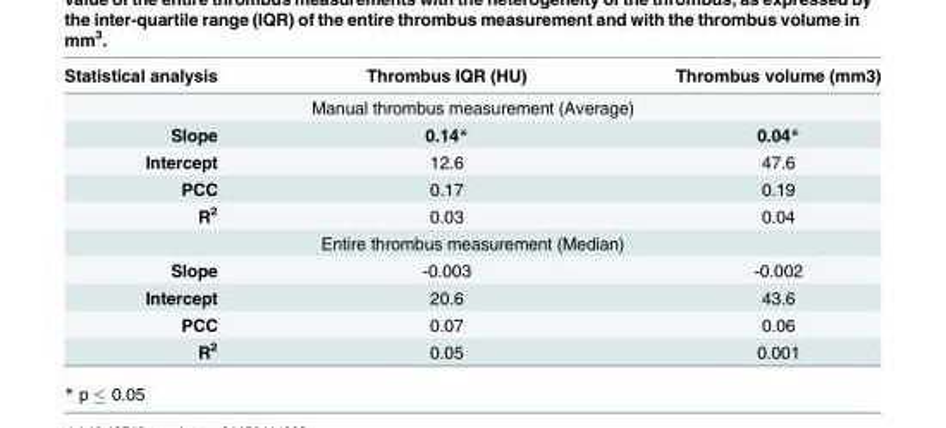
<table><thead><tr><td>Statistical analysis</td><td>Thrombus IQR (HU)</td><td>Thrombus volume (mm3)</td></tr></thead><tbody><tr><td colspan="3">Manual thrombus measurement (Average)</td></tr><tr><td>Slope</td><td>0.14*</td><td>0.04*</td></tr><tr><td>Intercept</td><td>12.6</td><td>47.6</td></tr><tr><td>PCC</td><td>0.17</td><td>0.19</td></tr><tr><td>R<sup>2</sup></td><td>0.03</td><td>0.04</td></tr><tr><td colspan="3">Entire thrombus measurement (Median)</td></tr><tr><td>Slope</td><td>-0.003</td><td>-0.002</td></tr><tr><td>Intercept</td><td>20.6</td><td>43.6</td></tr><tr><td>PCC</td><td>0.07</td><td>0.06</td></tr><tr><td>R<sup>2</sup></td><td>0.05</td><td>0.001</td></tr></tbody></table>